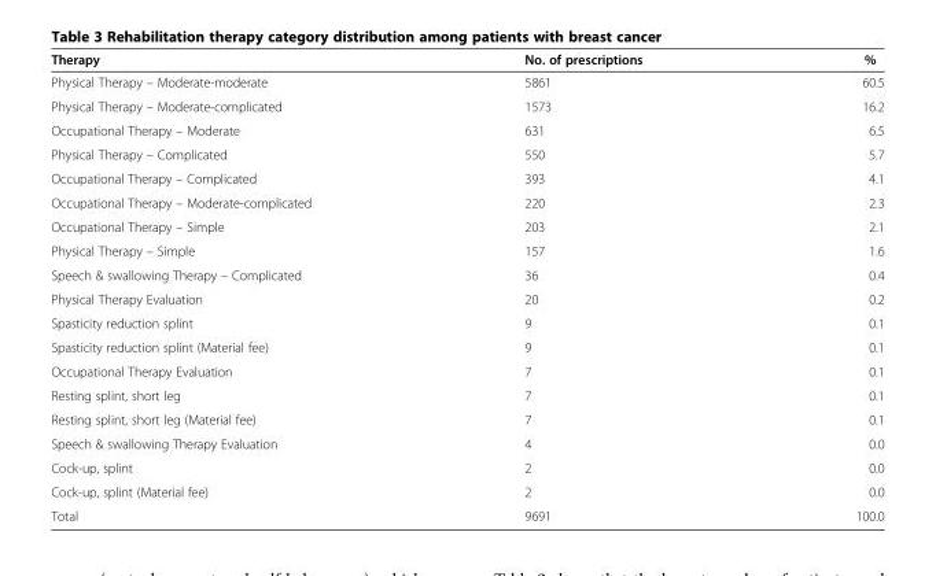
<table><thead><tr><td>Therapy</td><td>No. of prescriptions</td><td>%</td></tr></thead><tbody><tr><td>Physical Therapy – Moderate-moderate</td><td>5861</td><td>60.5</td></tr><tr><td>Physical Therapy – Moderate-complicated</td><td>1573</td><td>16.2</td></tr><tr><td>Occupational Therapy – Moderate</td><td>631</td><td>6.5</td></tr><tr><td>Physical Therapy – Complicated</td><td>550</td><td>5.7</td></tr><tr><td>Occupational Therapy – Complicated</td><td>393</td><td>4.1</td></tr><tr><td>Occupational Therapy – Moderate-complicated</td><td>220</td><td>2.3</td></tr><tr><td>Occupational Therapy – Simple</td><td>203</td><td>2.1</td></tr><tr><td>Physical Therapy – Simple</td><td>157</td><td>1.6</td></tr><tr><td>Speech &amp; swallowing Therapy – Complicated</td><td>36</td><td>0.4</td></tr><tr><td>Physical Therapy Evaluation</td><td>20</td><td>0.2</td></tr><tr><td>Spasticity reduction splint</td><td>9</td><td>0.1</td></tr><tr><td>Spasticity reduction splint (Material fee)</td><td>9</td><td>0.1</td></tr><tr><td>Occupational Therapy Evaluation</td><td>7</td><td>0.1</td></tr><tr><td>Resting splint, short leg</td><td>7</td><td>0.1</td></tr><tr><td>Resting splint, short leg (Material fee)</td><td>7</td><td>0.1</td></tr><tr><td>Speech &amp; swallowing Therapy Evaluation</td><td>4</td><td>0.0</td></tr><tr><td>Cock-up, splint</td><td>2</td><td>0.0</td></tr><tr><td>Cock-up, splint (Material fee)</td><td>2</td><td>0.0</td></tr><tr><td>Total</td><td>9691</td><td>100.0</td></tr></tbody></table>